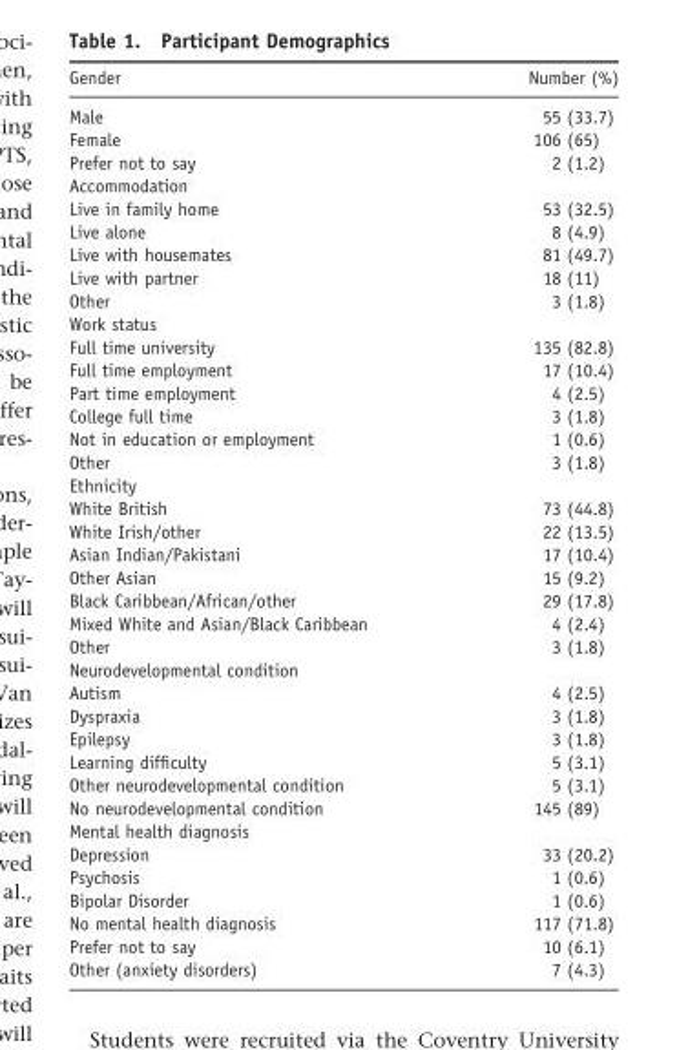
<table><thead><tr><td>Gender</td><td>Number (%)</td></tr></thead><tbody><tr><td>Male</td><td>55 (33.7)</td></tr><tr><td>Female</td><td>106 (65)</td></tr><tr><td>Prefer not to say</td><td>2 (1.2)</td></tr><tr><td colspan="2">Accommodation</td></tr><tr><td>Live in family home</td><td>53 (32.5)</td></tr><tr><td>Live alone</td><td>08 (4.9)</td></tr><tr><td>Live with housemates</td><td>81 (49.7)</td></tr><tr><td>Live with partner</td><td>18 (11)</td></tr><tr><td>Other</td><td>3 (1.8)</td></tr><tr><td colspan="2">Work status</td></tr><tr><td>Full time university</td><td>135 (82.8)</td></tr><tr><td>Full time employment</td><td>17 (10.4)</td></tr><tr><td>Part time employment</td><td>4 (2.5)</td></tr><tr><td>College full time</td><td>3 (1.8)</td></tr><tr><td>Not in education or employment</td><td>1 (0.6)</td></tr><tr><td>Other</td><td>3 (1.8)</td></tr><tr><td colspan="2">Ethnicity</td></tr><tr><td>White British</td><td>73 (44.8)</td></tr><tr><td>White Irish/other</td><td>22 (13.5)</td></tr><tr><td>Asian Indian/Pakistani</td><td>17 (10.4)</td></tr><tr><td>Other Asian</td><td>15 (9.2)</td></tr><tr><td>Black Caribbean/African/other</td><td>29 (17.8)</td></tr><tr><td>Mixed White and Asian/Black Caribbean</td><td>4 (2.4)</td></tr><tr><td>Other</td><td>3 (1.8)</td></tr><tr><td colspan="2">Neurodevelopmental condition</td></tr><tr><td>Autism</td><td>4 (2.5)</td></tr><tr><td>Dyspraxia</td><td>3 (1.8)</td></tr><tr><td>Epilepsy</td><td>3 (1.8)</td></tr><tr><td>Learning difficulty</td><td>5 (3.1)</td></tr><tr><td>Other neurodevelopmental condition</td><td>5 (3.1)</td></tr><tr><td>No neurodevelopmental condition</td><td>145 (89)</td></tr><tr><td colspan="2">Mental health diagnosis</td></tr><tr><td>Depression</td><td>33 (20.2)</td></tr><tr><td>Psychosis</td><td>1 (0.6)</td></tr><tr><td>Bipolar Disorder</td><td>1 (0.6)</td></tr><tr><td>No mental health diagnosis</td><td>117 (71.8)</td></tr><tr><td>Prefer not to say</td><td>10 (6.1)</td></tr><tr><td>Other (anxiety disorders)</td><td>7 (4.3)</td></tr></tbody></table>